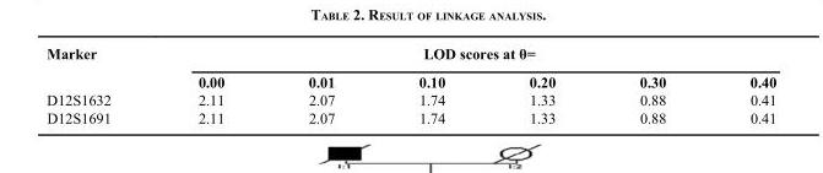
<table><thead><tr><td rowspan="2">Marker</td><td colspan="6">LOD scores at θ=</td></tr><tr><td>0.00</td><td>0.01</td><td>0.10</td><td>0.20</td><td>0.30</td><td>0.40</td></tr></thead><tbody><tr><td>D12S1632</td><td>2.11</td><td>2.07</td><td>1.74</td><td>1.33</td><td>0.88</td><td>0.41</td></tr><tr><td>D12S1691</td><td>2.11</td><td>2.07</td><td>1.74</td><td>1.33</td><td>0.88</td><td>0.41</td></tr></tbody></table>